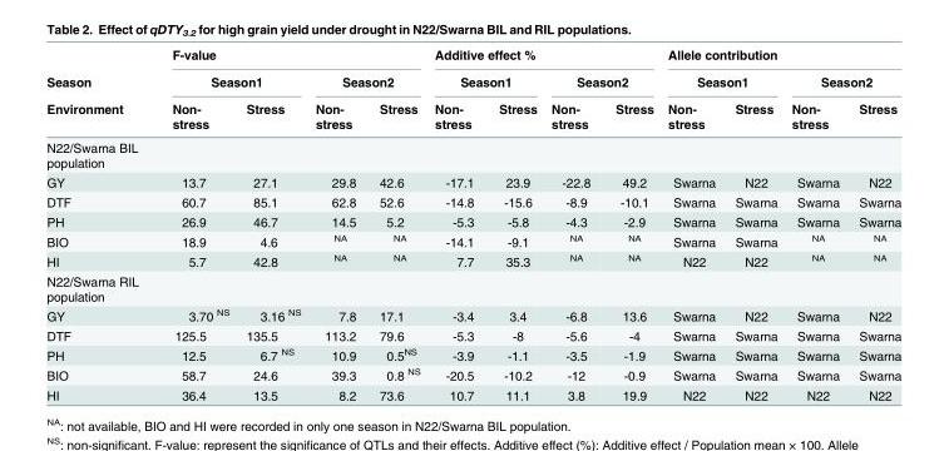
<table><thead><tr><td rowspan="3">Season Environment</td><td colspan="4">F-value</td><td colspan="4">Additive effect %</td><td colspan="4">Allele contribution</td></tr><tr><td colspan="2">Season1</td><td colspan="2">Season2</td><td colspan="2">Season1</td><td colspan="2">Season2</td><td colspan="2">Season1</td><td colspan="2">Season2</td></tr><tr><td>Non- stress</td><td>Stress</td><td>Non- stress</td><td>Stress</td><td>Non- stress</td><td>Stress</td><td>Non- stress</td><td>Stress</td><td>Non- stress</td><td>Stress</td><td>Non- stress</td><td>Stress</td></tr></thead><tbody><tr><td colspan="13">N22/Swarna BIL population</td></tr><tr><td>GY</td><td>13.7</td><td>27.1</td><td>29.8</td><td>42.6</td><td>-17.1</td><td>23.9</td><td>-22.8</td><td>49.2</td><td>Swarna</td><td>N22</td><td>Swarna</td><td>N22</td></tr><tr><td>DTF</td><td>60.7</td><td>85.1</td><td>62.8</td><td>52.6</td><td>-14.8</td><td>-15.6</td><td>-8.9</td><td>-10.1</td><td>Swarna</td><td>Swarna</td><td>Swarna</td><td>Swarna</td></tr><tr><td>PH</td><td>26.9</td><td>46.7</td><td>14.5</td><td>5.2</td><td>-5.3</td><td>-5.8</td><td>-4.3</td><td>-2.9</td><td>Swarna</td><td>Swarna</td><td>Swarna</td><td>Swarna</td></tr><tr><td>BIO</td><td>18.9</td><td>4.6</td><td><sup>NA</sup></td><td><sup>NA</sup></td><td>-14.1</td><td>-9.1</td><td><sup>NA</sup></td><td><sup>NA</sup></td><td>Swarna</td><td>Swarna</td><td><sup>NA</sup></td><td><sup>NA</sup></td></tr><tr><td>HI</td><td>5.7</td><td>42.8</td><td><sup>NA</sup></td><td><sup>NA</sup></td><td>7.7</td><td>35.3</td><td><sup>NA</sup></td><td><sup>NA</sup></td><td>N22</td><td>N22</td><td><sup>NA</sup></td><td><sup>NA</sup></td></tr><tr><td colspan="13">N22/Swarna RIL population</td></tr><tr><td>GY</td><td>3.70 <sup>NS</sup></td><td>3.16 <sup>NS</sup></td><td>7.8</td><td>17.1</td><td>-3.4</td><td>3.4</td><td>-6.8</td><td>13.6</td><td>Swarna</td><td>N22</td><td>Swarna</td><td>N22</td></tr><tr><td>DTF</td><td>125.5</td><td>135.5</td><td>113.2</td><td>79.6</td><td>-5.3</td><td>-8</td><td>-5.6</td><td>-4</td><td>Swarna</td><td>Swarna</td><td>Swarna</td><td>Swarna</td></tr><tr><td>PH</td><td>12.5</td><td>6.7 <sup>NS</sup></td><td>10.9</td><td>0.5<sup>NS</sup></td><td>-3.9</td><td>-1.1</td><td>-3.5</td><td>-1.9</td><td>Swarna</td><td>Swarna</td><td>Swarna</td><td>Swarna</td></tr><tr><td>BIO</td><td>58.7</td><td>24.6</td><td>39.3</td><td>0.8 <sup>NS</sup></td><td>-20.5</td><td>-10.2</td><td>-12</td><td>-0.9</td><td>Swarna</td><td>Swarna</td><td>Swarna</td><td>Swarna</td></tr><tr><td>HI</td><td>36.4</td><td>13.5</td><td>8.2</td><td>73.6</td><td>10.7</td><td>11.1</td><td>3.8</td><td>19.9</td><td>N22</td><td>N22</td><td>N22</td><td>N22</td></tr></tbody></table>